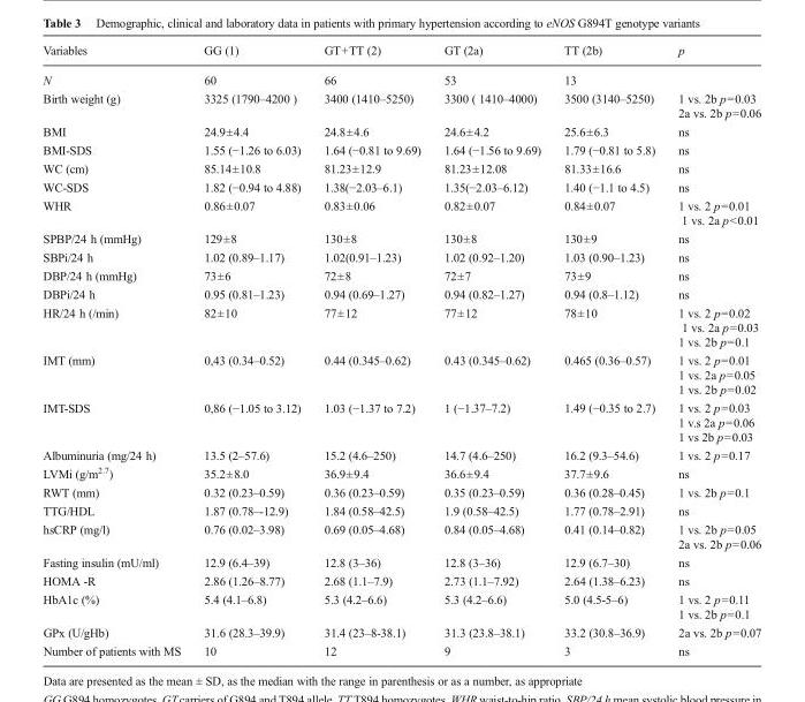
<table><thead><tr><td>Variables</td><td>GG (1)</td><td>GT+TT (2)</td><td>GT (2a)</td><td>TT (2b)</td><td>p</td></tr></thead><tbody><tr><td>N</td><td>60</td><td>66</td><td>53</td><td>13</td><td></td></tr><tr><td>Birth weight (g)</td><td>3325 (1790–4200 )</td><td>3400 (1410–5250)</td><td>3300 ( 1410–4000)</td><td>3500 (3140–5250)</td><td>1 vs. 2b p=0.03 2a vs. 2b p=0.06</td></tr><tr><td>BMI</td><td>24.9±4.4</td><td>24.8±4.6</td><td>24.6±4.2</td><td>25.6±6.3</td><td>ns</td></tr><tr><td>BMI-SDS</td><td>1.55 (−1.26 to 6.03)</td><td>1.64 (−0.81 to 9.69)</td><td>1.64 (−1.56 to 9.69)</td><td>1.79 (−0.81 to 5.8)</td><td>ns</td></tr><tr><td>WC (cm)</td><td>85.14±10.8</td><td>81.23±12.9</td><td>81.23±12.08</td><td>81.33±16.6</td><td>ns</td></tr><tr><td>WC-SDS</td><td>1.82 (−0.94 to 4.88)</td><td>1.38(−2.03–6.1)</td><td>1.35(−2.03–6.12)</td><td>1.40 (−1.1 to 4.5)</td><td>ns</td></tr><tr><td>WHR</td><td>0.86±0.07</td><td>0.83±0.06</td><td>0.82±0.07</td><td>0.84±0.07</td><td>1 vs. 2 p=0.01 1 vs. 2a p&lt;0.01</td></tr><tr><td>SPBP/24 h (mmHg)</td><td>129±8</td><td>130±8</td><td>130±8</td><td>130±9</td><td>ns</td></tr><tr><td>SBPi/24 h</td><td>1.02 (0.89–1.17)</td><td>1.02(0.91–1.23)</td><td>1.02 (0.92–1.20)</td><td>1.03 (0.90–1.23)</td><td>ns</td></tr><tr><td>DBP/24 h (mmHg)</td><td>73±6</td><td>72±8</td><td>72±7</td><td>73±9</td><td>ns</td></tr><tr><td>DBPi/24 h</td><td>0.95 (0.81–1.23)</td><td>0.94 (0.69–1.27)</td><td>0.94 (0.82–1.27)</td><td>0.94 (0.8–1.12)</td><td>ns</td></tr><tr><td>HR/24 h (/min)</td><td>82±10</td><td>77±12</td><td>77±12</td><td>78±10</td><td>1 vs. 2 p=0.02 1 vs. 2a p=0.03 1 vs. 2b p=0.1</td></tr><tr><td>IMT (mm)</td><td>0,43 (0.34–0.52)</td><td>0.44 (0.345–0.62)</td><td>0.43 (0.345–0.62)</td><td>0.465 (0.36–0.57)</td><td>1 vs. 2 p=0.01 1 vs. 2a p=0.05 1 vs. 2b p=0.02</td></tr><tr><td>IMT-SDS</td><td>0,86 (−1.05 to 3.12)</td><td>1.03 (−1.37 to 7.2)</td><td>1 (−1.37–7.2)</td><td>1.49 (−0.35 to 2.7)</td><td>1 vs. 2 p=0.03 1 v.s 2a p=0.06 1 vs 2b p=0.03</td></tr><tr><td>Albuminuria (mg/24 h)</td><td>13.5 (2–57.6)</td><td>15.2 (4.6–250)</td><td>14.7 (4.6–250)</td><td>16.2 (9.3–54.6)</td><td>1 vs. 2 p=0.17</td></tr><tr><td>LVMi (g/m<sup>2.7</sup>)</td><td>35.2±8.0</td><td>36.9±9.4</td><td>36.6±9.4</td><td>37.7±9.6</td><td>ns</td></tr><tr><td>RWT (mm)</td><td>0.32 (0.23–0.59)</td><td>0.36 (0.23–0.59)</td><td>0.35 (0.23–0.59)</td><td>0.36 (0.28–0.45)</td><td>1 vs. 2b p=0.1</td></tr><tr><td>TTG/HDL</td><td>1.87 (0.78–-12.9)</td><td>1.84 (0.58–42.5)</td><td>1.9 (0.58–42.5)</td><td>1.77 (0.78–2.91)</td><td>ns</td></tr><tr><td>hsCRP (mg/l)</td><td>0.76 (0.02–3.98)</td><td>0.69 (0.05–4.68)</td><td>0.84 (0.05–4.68)</td><td>0.41 (0.14–0.82)</td><td>1 vs. 2b p=0.05 2a vs. 2b p=0.06</td></tr><tr><td>Fasting insulin (mU/ml)</td><td>12.9 (6.4–39)</td><td>12.8 (3–36)</td><td>12.8 (3–36)</td><td>12.9 (6.7–30)</td><td>ns</td></tr><tr><td>HOMA -R</td><td>2.86 (1.26–8.77)</td><td>2.68 (1.1–7.9)</td><td>2.73 (1.1–7.92)</td><td>2.64 (1.38–6.23)</td><td>ns</td></tr><tr><td>HbA1c (%)</td><td>5.4 (4.1–6.8)</td><td>5.3 (4.2–6.6)</td><td>5.3 (4.2–6.6)</td><td>5.0 (4.5-5–6)</td><td>1 vs. 2 p=0.11 1 vs. 2b p=0.1</td></tr><tr><td>GPx (U/gHb)</td><td>31.6 (28.3–39.9)</td><td>31.4 (23–8-38.1)</td><td>31.3 (23.8–38.1)</td><td>33.2 (30.8–36.9)</td><td>2a vs. 2b p=0.07</td></tr><tr><td>Number of patients with MS</td><td>10</td><td>12</td><td>9</td><td>3</td><td>ns</td></tr></tbody></table>